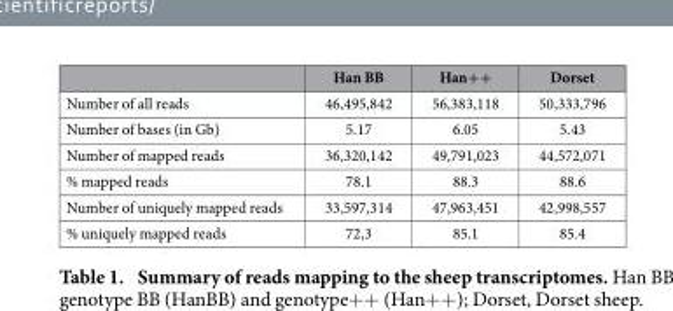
<table><thead><tr><td></td><td>Han BB</td><td>Han++</td><td>Dorset</td></tr></thead><tbody><tr><td>Number of all reads</td><td>46,495,842</td><td>56,383,118</td><td>50,333,796</td></tr><tr><td>Number of bases (in Gb)</td><td>5.17</td><td>6.05</td><td>5.43</td></tr><tr><td>Number of mapped reads</td><td>36,320,142</td><td>49,791,023</td><td>44,572,071</td></tr><tr><td>% mapped reads</td><td>78.1</td><td>88.3</td><td>88.6</td></tr><tr><td>Number of uniquely mapped reads</td><td>33,597,314</td><td>47,963,451</td><td>42,998,557</td></tr><tr><td>% uniquely mapped reads</td><td>72,3</td><td>85.1</td><td>85.4</td></tr></tbody></table>